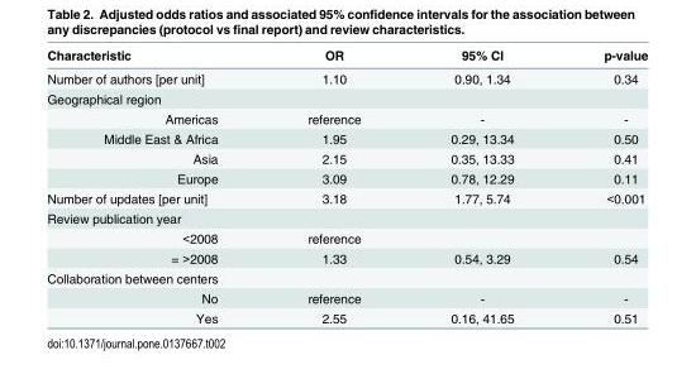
<table><thead><tr><td>Characteristic</td><td>OR</td><td>95% CI</td><td>p-value</td></tr></thead><tbody><tr><td>Number of authors [per unit]</td><td>1.10</td><td>0.90, 1.34</td><td>0.34</td></tr><tr><td colspan="4">Geographical region</td></tr><tr><td>Americas</td><td>reference</td><td>-</td><td>-</td></tr><tr><td>Middle East &amp; Africa</td><td>1.95</td><td>0.29, 13.34</td><td>0.50</td></tr><tr><td>Asia</td><td>2.15</td><td>0.35, 13.33</td><td>0.41</td></tr><tr><td>Europe</td><td>3.09</td><td>0.78, 12.29</td><td>0.11</td></tr><tr><td>Number of updates [per unit]</td><td>3.18</td><td>1.77, 5.74</td><td>&lt;0.001</td></tr><tr><td colspan="4">Review publication year</td></tr><tr><td>&lt;2008</td><td>reference</td><td></td><td></td></tr><tr><td>= &gt;2008</td><td>1.33</td><td>0.54, 3.29</td><td>0.54</td></tr><tr><td colspan="4">Collaboration between centers</td></tr><tr><td>No</td><td>reference</td><td>-</td><td>-</td></tr><tr><td>Yes</td><td>2.55</td><td>0.16, 41.65</td><td>0.51</td></tr></tbody></table>